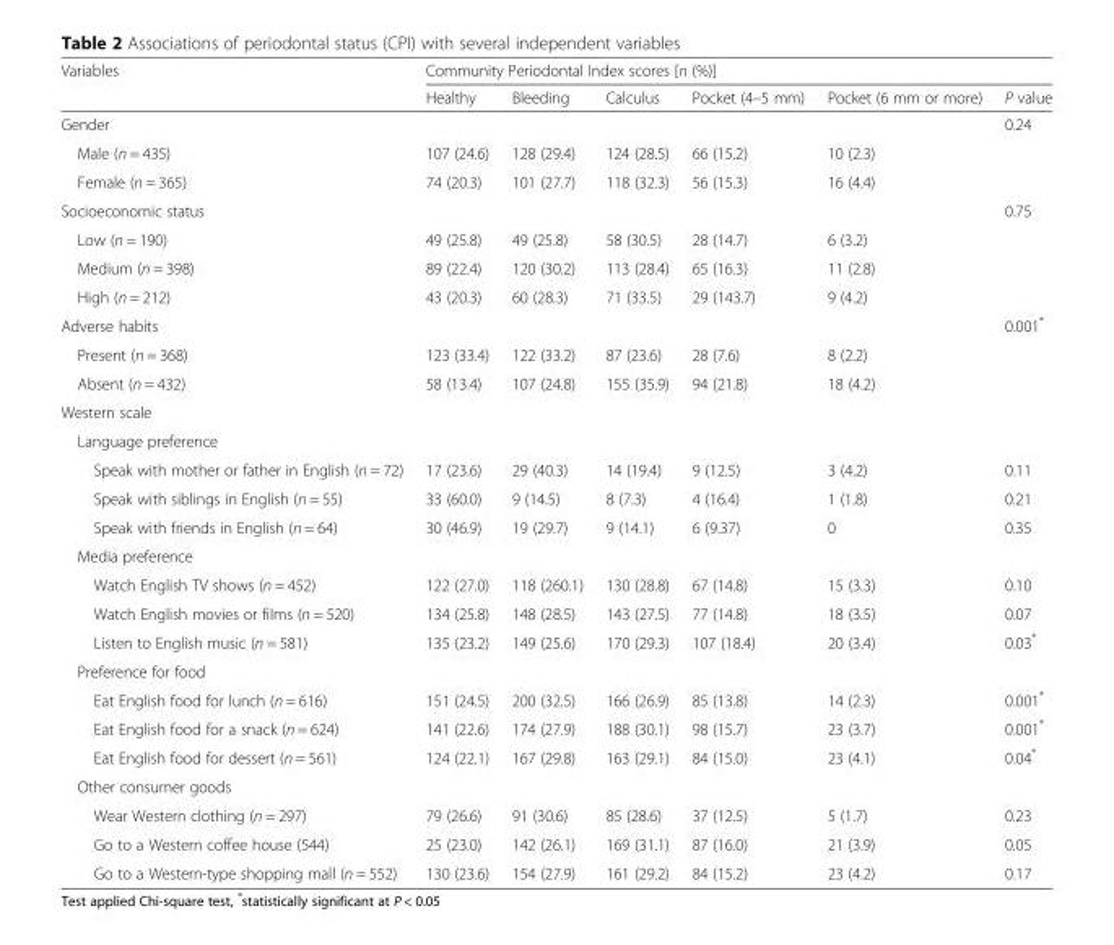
<table><thead><tr><td rowspan="2">Variables</td><td colspan="6">Community Periodontal Index scores [n (%)]</td></tr><tr><td>Healthy</td><td>Bleeding</td><td>Calculus</td><td>Pocket (4–5 mm)</td><td>Pocket (6 mm or more)</td><td>P value</td></tr></thead><tbody><tr><td>Gender</td><td></td><td></td><td></td><td></td><td></td><td>0.24</td></tr><tr><td>Male (n = 435)</td><td>107 (24.6)</td><td>128 (29.4)</td><td>124 (28.5)</td><td>66 (15.2)</td><td>10 (2.3)</td><td rowspan="2"></td></tr><tr><td>Female (n = 365)</td><td>74 (20.3)</td><td>101 (27.7)</td><td>118 (32.3)</td><td>56 (15.3)</td><td>16 (4.4)</td></tr><tr><td>Socioeconomic status</td><td></td><td></td><td></td><td></td><td></td><td>0.75</td></tr><tr><td>Low (n = 190)</td><td>49 (25.8)</td><td>49 (25.8)</td><td>58 (30.5)</td><td>28 (14.7)</td><td>6 (3.2)</td><td rowspan="3"></td></tr><tr><td>Medium (n = 398)</td><td>89 (22.4)</td><td>120 (30.2)</td><td>113 (28.4)</td><td>65 (16.3)</td><td>11 (2.8)</td></tr><tr><td>High (n = 212)</td><td>43 (20.3)</td><td>60 (28.3)</td><td>71 (33.5)</td><td>29 (143.7)</td><td>9 (4.2)</td></tr><tr><td>Adverse habits</td><td></td><td></td><td></td><td></td><td></td><td>0.001*</td></tr><tr><td>Present (n = 368)</td><td>123 (33.4)</td><td>122 (33.2)</td><td>87 (23.6)</td><td>28 (7.6)</td><td>8 (2.2)</td><td rowspan="2"></td></tr><tr><td>Absent (n = 432)</td><td>58 (13.4)</td><td>107 (24.8)</td><td>155 (35.9)</td><td>94 (21.8)</td><td>18 (4.2)</td></tr><tr><td colspan="7">Western scale</td></tr><tr><td colspan="7">Language preference</td></tr><tr><td>Speak with mother or father in English (n = 72)</td><td>17 (23.6)</td><td>29 (40.3)</td><td>14 (19.4)</td><td>9 (12.5)</td><td>3 (4.2)</td><td>0.11</td></tr><tr><td>Speak with siblings in English (n = 55)</td><td>33 (60.0)</td><td>9 (14.5)</td><td>8 (7.3)</td><td>4 (16.4)</td><td>1 (1.8)</td><td>0.21</td></tr><tr><td>Speak with friends in English (n = 64)</td><td>30 (46.9)</td><td>19 (29.7)</td><td>9 (14.1)</td><td>6 (9.37)</td><td>0</td><td>0.35</td></tr><tr><td colspan="7">Media preference</td></tr><tr><td>Watch English TV shows (n = 452)</td><td>122 (27.0)</td><td>118 (260.1)</td><td>130 (28.8)</td><td>67 (14.8)</td><td>15 (3.3)</td><td>0.10</td></tr><tr><td>Watch English movies or films (n = 520)</td><td>134 (25.8)</td><td>148 (28.5)</td><td>143 (27.5)</td><td>77 (14.8)</td><td>18 (3.5)</td><td>0.07</td></tr><tr><td>Listen to English music (n = 581)</td><td>135 (23.2)</td><td>149 (25.6)</td><td>170 (29.3)</td><td>107 (18.4)</td><td>20 (3.4)</td><td>0.03*</td></tr><tr><td colspan="7">Preference for food</td></tr><tr><td>Eat English food for lunch (n = 616)</td><td>151 (24.5)</td><td>200 (32.5)</td><td>166 (26.9)</td><td>85 (13.8)</td><td>14 (2.3)</td><td>0.001*</td></tr><tr><td>Eat English food for a snack (n = 624)</td><td>141 (22.6)</td><td>174 (27.9)</td><td>188 (30.1)</td><td>98 (15.7)</td><td>23 (3.7)</td><td>0.001*</td></tr><tr><td>Eat English food for dessert (n = 561)</td><td>124 (22.1)</td><td>167 (29.8)</td><td>163 (29.1)</td><td>84 (15.0)</td><td>23 (4.1)</td><td>0.04*</td></tr><tr><td colspan="7">Other consumer goods</td></tr><tr><td>Wear Western clothing (n = 297)</td><td>79 (26.6)</td><td>91 (30.6)</td><td>85 (28.6)</td><td>37 (12.5)</td><td>5 (1.7)</td><td>0.23</td></tr><tr><td>Go to a Western coffee house (544)</td><td>25 (23.0)</td><td>142 (26.1)</td><td>169 (31.1)</td><td>87 (16.0)</td><td>21 (3.9)</td><td>0.05</td></tr><tr><td>Go to a Western-type shopping mall (n = 552)</td><td>130 (23.6)</td><td>154 (27.9)</td><td>161 (29.2)</td><td>84 (15.2)</td><td>23 (4.2)</td><td>0.17</td></tr></tbody></table>